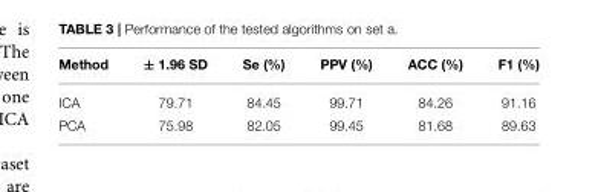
<table><thead><tr><td>Method</td><td>± 1.96 SD</td><td>Se (%)</td><td>PPV (%)</td><td>ACC (%)</td><td>F1 (%)</td></tr></thead><tbody><tr><td>ICA</td><td>79.71</td><td>84.45</td><td>99.71</td><td>84.26</td><td>91.16</td></tr><tr><td>PCA</td><td>75.98</td><td>82.05</td><td>99.45</td><td>81.68</td><td>89.63</td></tr></tbody></table>